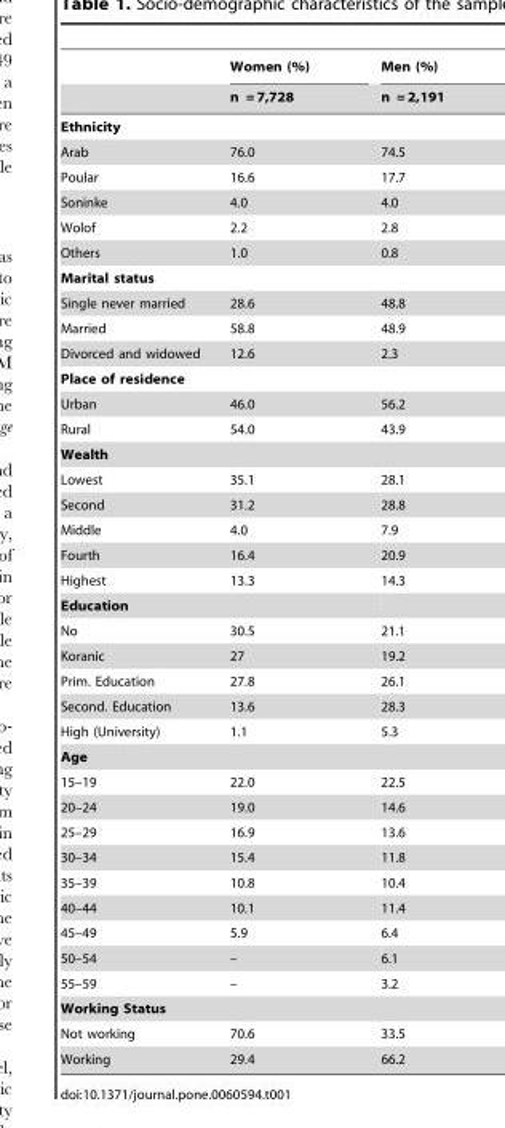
<table><thead><tr><td rowspan="2"></td><td rowspan="2">Women (%) n = 7,728</td><td rowspan="2">Men (%) n = 2,191</td></tr><tr></tr></thead><tbody><tr><td colspan="3">Ethnicity</td></tr><tr><td>Arab</td><td>76.0</td><td>74.5</td></tr><tr><td>Poular</td><td>16.6</td><td>17.7</td></tr><tr><td>Soninke</td><td>4.0</td><td>4.0</td></tr><tr><td>Wolof</td><td>2.2</td><td>2.8</td></tr><tr><td>Others</td><td>1.0</td><td>0.8</td></tr><tr><td colspan="3">Marital status</td></tr><tr><td>Single never married</td><td>28.6</td><td>48.8</td></tr><tr><td>Married</td><td>58.8</td><td>48.9</td></tr><tr><td>Divorced and widowed</td><td>12.6</td><td>2.3</td></tr><tr><td colspan="3">Place of residence</td></tr><tr><td>Urban</td><td>46.0</td><td>56.2</td></tr><tr><td>Rural</td><td>54.0</td><td>43.9</td></tr><tr><td colspan="3">Wealth</td></tr><tr><td>Lowest</td><td>35.1</td><td>28.1</td></tr><tr><td>Second</td><td>31.2</td><td>28.8</td></tr><tr><td>Middle</td><td>4.0</td><td>7.9</td></tr><tr><td>Fourth</td><td>16.4</td><td>20.9</td></tr><tr><td>Highest</td><td>13.3</td><td>14.3</td></tr><tr><td colspan="3">Education</td></tr><tr><td>No</td><td>30.5</td><td>21.1</td></tr><tr><td>Koranic</td><td>27</td><td>19.2</td></tr><tr><td>Prim. Education</td><td>27.8</td><td>26.1</td></tr><tr><td>Second. Education</td><td>13.6</td><td>28.3</td></tr><tr><td>High (University)</td><td>1.1</td><td>5.3</td></tr><tr><td colspan="3">Age</td></tr><tr><td>15–19</td><td>22.0</td><td>22.5</td></tr><tr><td>20–24</td><td>19.0</td><td>14.6</td></tr><tr><td>25–29</td><td>16.9</td><td>13.6</td></tr><tr><td>30–34</td><td>15.4</td><td>11.8</td></tr><tr><td>35–39</td><td>10.8</td><td>10.4</td></tr><tr><td>40–44</td><td>10.1</td><td>11.4</td></tr><tr><td>45–49</td><td>5.9</td><td>6.4</td></tr><tr><td>50–54</td><td>–</td><td>6.1</td></tr><tr><td>55–59</td><td>–</td><td>3.2</td></tr><tr><td colspan="3">Working Status</td></tr><tr><td>Not working</td><td>70.6</td><td>33.5</td></tr><tr><td>Working</td><td>29.4</td><td>66.2</td></tr></tbody></table>